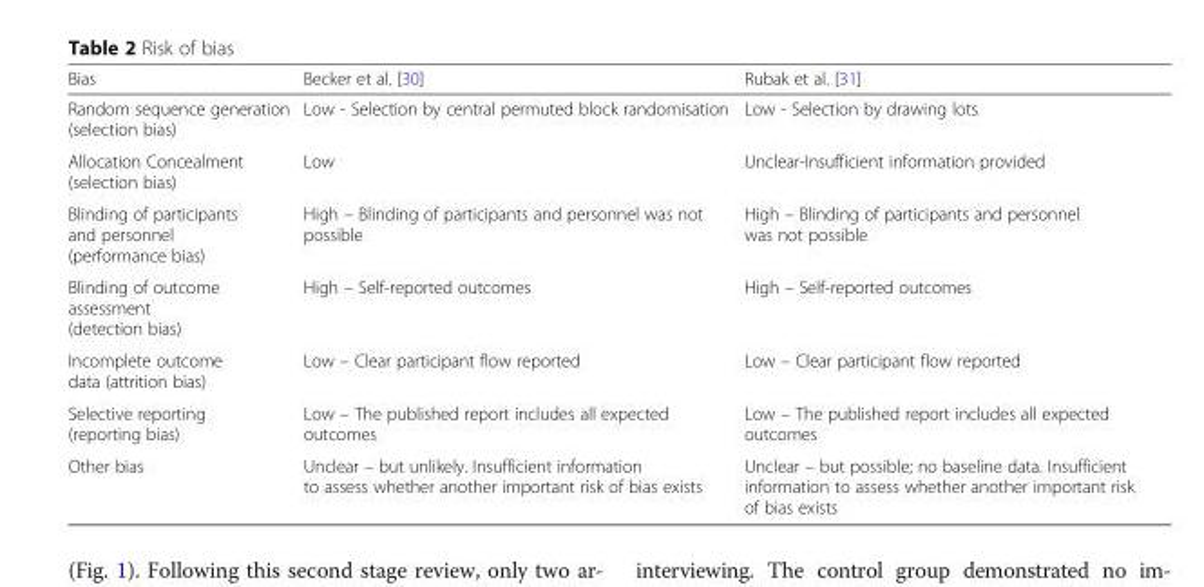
<table><thead><tr><td>Bias</td><td>Becker et al. [30]</td><td>Rubak et al. [31]</td></tr></thead><tbody><tr><td>Random sequence generation (selection bias)</td><td>Low - Selection by central permuted block randomisation</td><td>Low - Selection by drawing lots</td></tr><tr><td>Allocation Concealment (selection bias)</td><td>Low</td><td>Unclear-Insufficient information provided</td></tr><tr><td>Blinding of participants and personnel (performance bias)</td><td>High – Blinding of participants and personnel was not possible</td><td>High – Blinding of participants and personnel was not possible</td></tr><tr><td>Blinding of outcome assessment (detection bias)</td><td>High – Self-reported outcomes</td><td>High – Self-reported outcomes</td></tr><tr><td>Incomplete outcome data (attrition bias)</td><td>Low – Clear participant flow reported</td><td>Low – Clear participant flow reported</td></tr><tr><td>Selective reporting (reporting bias)</td><td>Low – The published report includes all expected outcomes</td><td>Low – The published report includes all expected outcomes</td></tr><tr><td>Other bias</td><td>Unclear – but unlikely. Insufficient information to assess whether another important risk of bias exists</td><td>Unclear – but possible; no baseline data. Insufficient information to assess whether another important risk of bias exists</td></tr></tbody></table>